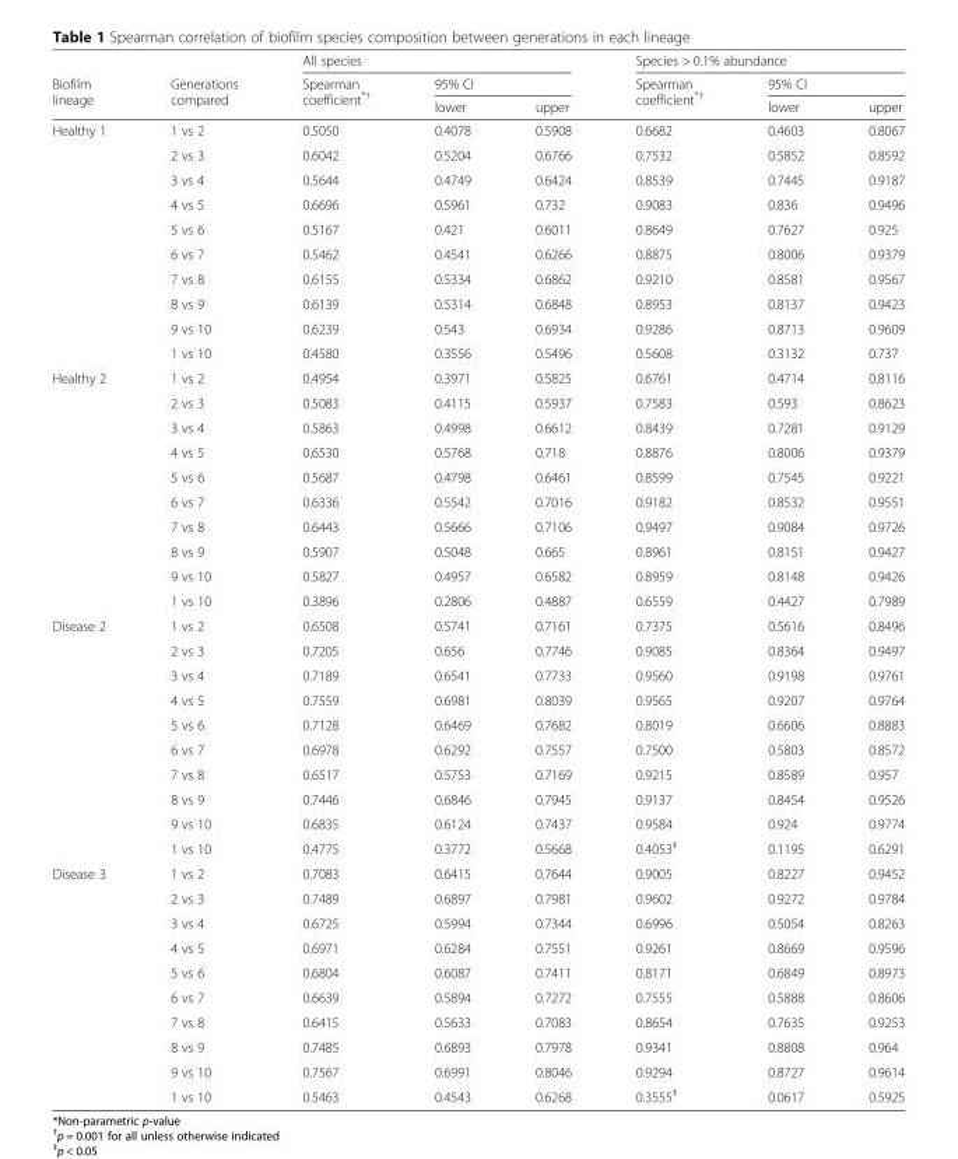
<table><thead><tr><td rowspan="3">Biofilm lineage</td><td rowspan="3">Generations compared</td><td colspan="3">All species</td><td colspan="3">Species &gt; 0.1% abundance</td></tr><tr><td rowspan="2">Spearman coefficient<sup>*†</sup></td><td colspan="2">95% CI</td><td rowspan="2">Spearman coefficient<sup>*†</sup></td><td colspan="2">95% CI</td></tr><tr><td>lower</td><td>upper</td><td>lower</td><td>upper</td></tr></thead><tbody><tr><td rowspan="10">Healthy 1</td><td>1 vs 2</td><td>0.5050</td><td>0.4078</td><td>0.5908</td><td>0.6682</td><td>0.4603</td><td>0.8067</td></tr><tr><td>2 vs 3</td><td>0.6042</td><td>0.5204</td><td>0.6766</td><td>0.7532</td><td>0.5852</td><td>0.8592</td></tr><tr><td>3 vs 4</td><td>0.5644</td><td>0.4749</td><td>0.6424</td><td>0.8539</td><td>0.7445</td><td>0.9187</td></tr><tr><td>4 vs 5</td><td>0.6696</td><td>0.5961</td><td>0.732</td><td>0.9083</td><td>0.836</td><td>0.9496</td></tr><tr><td>5 vs 6</td><td>0.5167</td><td>0.421</td><td>0.6011</td><td>0.8649</td><td>0.7627</td><td>0.925</td></tr><tr><td>6 vs 7</td><td>0.5462</td><td>0.4541</td><td>0.6266</td><td>0.8875</td><td>0.8006</td><td>0.9379</td></tr><tr><td>7 vs 8</td><td>0.6155</td><td>0.5334</td><td>0.6862</td><td>0.9210</td><td>0.8581</td><td>0.9567</td></tr><tr><td>8 vs 9</td><td>0.6139</td><td>0.5314</td><td>0.6848</td><td>0.8953</td><td>0.8137</td><td>0.9423</td></tr><tr><td>9 vs 10</td><td>0.6239</td><td>0.543</td><td>0.6934</td><td>0.9286</td><td>0.8713</td><td>0.9609</td></tr><tr><td>1 vs 10</td><td>0.4580</td><td>0.3556</td><td>0.5496</td><td>0.5608</td><td>0.3132</td><td>0.737</td></tr><tr><td rowspan="10">Healthy 2</td><td>1 vs 2</td><td>0.4954</td><td>0.3971</td><td>0.5825</td><td>0.6761</td><td>0.4714</td><td>0.8116</td></tr><tr><td>2 vs 3</td><td>0.5083</td><td>0.4115</td><td>0.5937</td><td>0.7583</td><td>0.593</td><td>0.8623</td></tr><tr><td>3 vs 4</td><td>0.5863</td><td>0.4998</td><td>0.6612</td><td>0.8439</td><td>0.7281</td><td>0.9129</td></tr><tr><td>4 vs 5</td><td>0.6530</td><td>0.5768</td><td>0.718</td><td>0.8876</td><td>0.8006</td><td>0.9379</td></tr><tr><td>5 vs 6</td><td>0.5687</td><td>0.4798</td><td>0.6461</td><td>0.8599</td><td>0.7545</td><td>0.9221</td></tr><tr><td>6 vs 7</td><td>0.6336</td><td>0.5542</td><td>0.7016</td><td>0.9182</td><td>0.8532</td><td>0.9551</td></tr><tr><td>7 vs 8</td><td>0.6443</td><td>0.5666</td><td>0.7106</td><td>0.9497</td><td>0.9084</td><td>0.9726</td></tr><tr><td>8 vs 9</td><td>0.5907</td><td>0.5048</td><td>0.665</td><td>0.8961</td><td>0.8151</td><td>0.9427</td></tr><tr><td>9 vs 10</td><td>0.5827</td><td>0.4957</td><td>0.6582</td><td>0.8959</td><td>0.8148</td><td>0.9426</td></tr><tr><td>1 vs 10</td><td>0.3896</td><td>0.2806</td><td>0.4887</td><td>0.6559</td><td>0.4427</td><td>0.7989</td></tr><tr><td rowspan="10">Disease 2</td><td>1 vs 2</td><td>0.6508</td><td>0.5741</td><td>0.7161</td><td>0.7375</td><td>0.5616</td><td>0.8496</td></tr><tr><td>2 vs 3</td><td>0.7205</td><td>0.656</td><td>0.7746</td><td>0.9085</td><td>0.8364</td><td>0.9497</td></tr><tr><td>3 vs 4</td><td>0.7189</td><td>0.6541</td><td>0.7733</td><td>0.9560</td><td>0.9198</td><td>0.9761</td></tr><tr><td>4 vs 5</td><td>0.7559</td><td>0.6981</td><td>0.8039</td><td>0.9565</td><td>0.9207</td><td>0.9764</td></tr><tr><td>5 vs 6</td><td>0.7128</td><td>0.6469</td><td>0.7682</td><td>0.8019</td><td>0.6606</td><td>0.8883</td></tr><tr><td>6 vs 7</td><td>0.6978</td><td>0.6292</td><td>0.7557</td><td>0.7500</td><td>0.5803</td><td>0.8572</td></tr><tr><td>7 vs 8</td><td>0.6517</td><td>0.5753</td><td>0.7169</td><td>0.9215</td><td>0.8589</td><td>0.957</td></tr><tr><td>8 vs 9</td><td>0.7446</td><td>0.6846</td><td>0.7945</td><td>0.9137</td><td>0.8454</td><td>0.9526</td></tr><tr><td>9 vs 10</td><td>0.6835</td><td>0.6124</td><td>0.7437</td><td>0.9584</td><td>0.924</td><td>0.9774</td></tr><tr><td>1 vs 10</td><td>0.4775</td><td>0.3772</td><td>0.5668</td><td>0.4053<sup>‡</sup></td><td>0.1195</td><td>0.6291</td></tr><tr><td rowspan="10">Disease 3</td><td>1 vs 2</td><td>0.7083</td><td>0.6415</td><td>0.7644</td><td>0.9005</td><td>0.8227</td><td>0.9452</td></tr><tr><td>2 vs 3</td><td>0.7489</td><td>0.6897</td><td>0.7981</td><td>0.9602</td><td>0.9272</td><td>0.9784</td></tr><tr><td>3 vs 4</td><td>0.6725</td><td>0.5994</td><td>0.7344</td><td>0.6996</td><td>0.5054</td><td>0.8263</td></tr><tr><td>4 vs 5</td><td>0.6971</td><td>0.6284</td><td>0.7551</td><td>0.9261</td><td>0.8669</td><td>0.9596</td></tr><tr><td>5 vs 6</td><td>0.6804</td><td>0.6087</td><td>0.7411</td><td>0.8171</td><td>0.6849</td><td>0.8973</td></tr><tr><td>6 vs 7</td><td>0.6639</td><td>0.5894</td><td>0.7272</td><td>0.7555</td><td>0.5888</td><td>0.8606</td></tr><tr><td>7 vs 8</td><td>0.6415</td><td>0.5633</td><td>0.7083</td><td>0.8654</td><td>0.7635</td><td>0.9253</td></tr><tr><td>8 vs 9</td><td>0.7485</td><td>0.6893</td><td>0.7978</td><td>0.9341</td><td>0.8808</td><td>0.964</td></tr><tr><td>9 vs 10</td><td>0.7567</td><td>0.6991</td><td>0.8046</td><td>0.9294</td><td>0.8727</td><td>0.9614</td></tr><tr><td>1 vs 10</td><td>0.5463</td><td>0.4543</td><td>0.6268</td><td>0.3555<sup>‡</sup></td><td>0.0617</td><td>0.5925</td></tr></tbody></table>